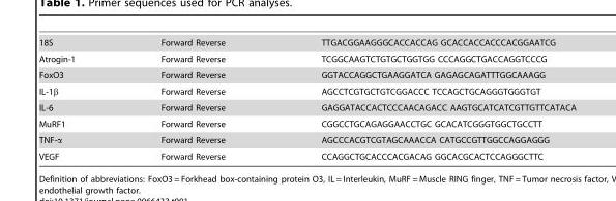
<table><tbody><tr><td>18S</td><td>Forward Reverse</td><td>TTGACGGAAGGGCACCACCAG GCACCACCACCCACGGAATCG</td></tr><tr><td>Atrogin-1</td><td>Forward Reverse</td><td>TCGGCAAGTCTGTGCTGGTGG CCCAGGCTGACCAGGTCCCG</td></tr><tr><td>FoxO3</td><td>Forward Reverse</td><td>GGTACCAGGCTGAAGGATCA GAGAGCAGATTTGGCAAAGG</td></tr><tr><td>IL-1β</td><td>Forward Reverse</td><td>AGCCTCGTGCTGTCGGACCC TCCAGCTGCAGGGTGGGTGT</td></tr><tr><td>IL-6</td><td>Forward Reverse</td><td>GAGGATACCACTCCCAACAGACC AAGTGCATCATCGTTGTTCATACA</td></tr><tr><td>MuRF1</td><td>Forward Reverse</td><td>CGGCCTGCAGAGGAACCTGC GCACATCGGGTGGCTGCCTT</td></tr><tr><td>TNF-α</td><td>Forward Reverse</td><td>AGCCCACGTCGTAGCAAACCA CATGCCGTTGGCCAGGAGGG</td></tr><tr><td>VEGF</td><td>Forward Reverse</td><td>CCAGGCTGCACCCACGACAG GGCACGCACTCCAGGGCTTC</td></tr></tbody></table>